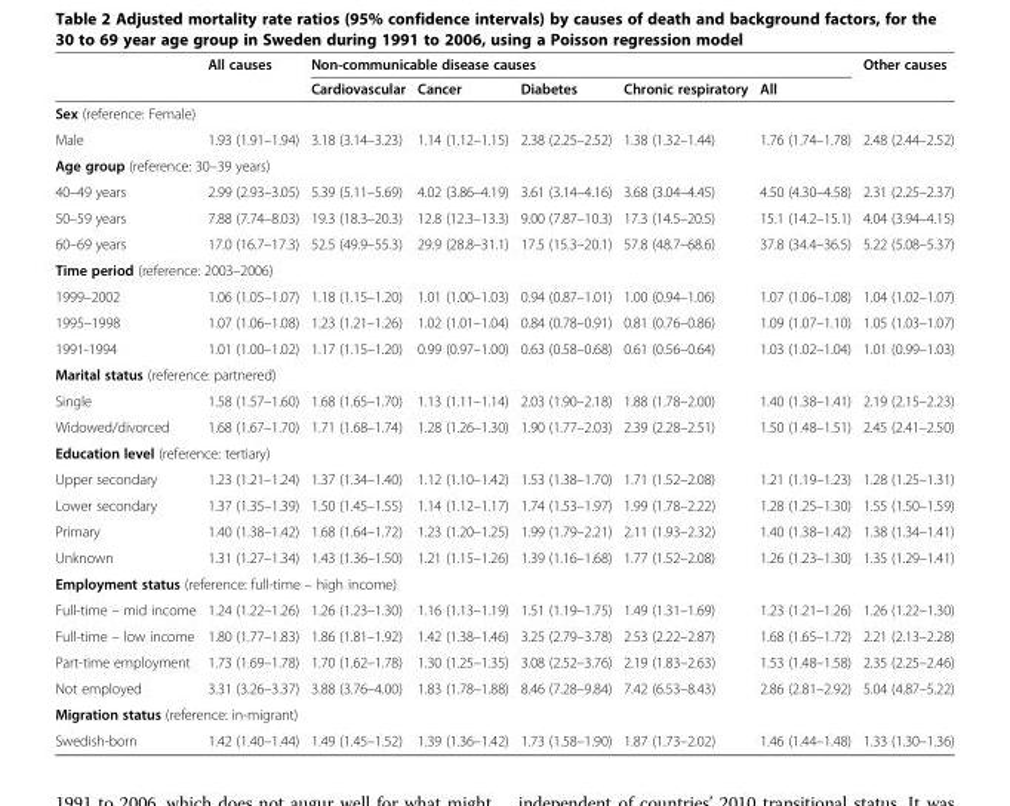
<table><thead><tr><td rowspan="2"></td><td rowspan="2">All causes</td><td colspan="5">Non-communicable disease causes</td><td rowspan="2">Other causes</td></tr><tr><td>Cardiovascular</td><td>Cancer</td><td>Diabetes</td><td>Chronic respiratory</td><td>All</td></tr></thead><tbody><tr><td colspan="8">Sex (reference: Female)</td></tr><tr><td>Male</td><td>1.93 (1.91–1.94)</td><td>3.18 (3.14–3.23)</td><td>1.14 (1.12–1.15)</td><td>2.38 (2.25–2.52)</td><td>1.38 (1.32–1.44)</td><td>1.76 (1.74–1.78)</td><td>2.48 (2.44–2.52)</td></tr><tr><td colspan="8">Age group (reference: 30–39 years)</td></tr><tr><td>40–49 years</td><td>2.99 (2.93–3.05)</td><td>5.39 (5.11–5.69)</td><td>4.02 (3.86–4.19)</td><td>3.61 (3.14–4.16)</td><td>3.68 (3.04–4.45)</td><td>4.50 (4.30–4.58)</td><td>2.31 (2.25–2.37)</td></tr><tr><td>50–59 years</td><td>7.88 (7.74–8.03)</td><td>19.3 (18.3–20.3)</td><td>12.8 (12.3–13.3)</td><td>9.00 (7.87–10.3)</td><td>17.3 (14.5–20.5)</td><td>15.1 (14.2–15.1)</td><td>4.04 (3.94–4.15)</td></tr><tr><td>60–69 years</td><td>17.0 (16.7–17.3)</td><td>52.5 (49.9–55.3)</td><td>29.9 (28.8–31.1)</td><td>17.5 (15.3–20.1)</td><td>57.8 (48.7–68.6)</td><td>37.8 (34.4–36.5)</td><td>5.22 (5.08–5.37)</td></tr><tr><td colspan="8">Time period (reference: 2003–2006)</td></tr><tr><td>1999–2002</td><td>1.06 (1.05–1.07)</td><td>1.18 (1.15–1.20)</td><td>1.01 (1.00–1.03)</td><td>0.94 (0.87–1.01)</td><td>1.00 (0.94–1.06)</td><td>1.07 (1.06–1.08)</td><td>1.04 (1.02–1.07)</td></tr><tr><td>1995–1998</td><td>1.07 (1.06–1.08)</td><td>1.23 (1.21–1.26)</td><td>1.02 (1.01–1.04)</td><td>0.84 (0.78–0.91)</td><td>0.81 (0.76–0.86)</td><td>1.09 (1.07–1.10)</td><td>1.05 (1.03–1.07)</td></tr><tr><td>1991-1994</td><td>1.01 (1.00–1.02)</td><td>1.17 (1.15–1.20)</td><td>0.99 (0.97–1.00)</td><td>0.63 (0.58–0.68)</td><td>0.61 (0.56–0.64)</td><td>1.03 (1.02–1.04)</td><td>1.01 (0.99–1.03)</td></tr><tr><td colspan="8">Marital status (reference: partnered)</td></tr><tr><td>Single</td><td>1.58 (1.57–1.60)</td><td>1.68 (1.65–1.70)</td><td>1.13 (1.11–1.14)</td><td>2.03 (1.90–2.18)</td><td>1.88 (1.78–2.00)</td><td>1.40 (1.38–1.41)</td><td>2.19 (2.15–2.23)</td></tr><tr><td>Widowed/divorced</td><td>1.68 (1.67–1.70)</td><td>1.71 (1.68–1.74)</td><td>1.28 (1.26–1.30)</td><td>1.90 (1.77–2.03)</td><td>2.39 (2.28–2.51)</td><td>1.50 (1.48–1.51)</td><td>2.45 (2.41–2.50)</td></tr><tr><td colspan="8">Education level (reference: tertiary)</td></tr><tr><td>Upper secondary</td><td>1.23 (1.21–1.24)</td><td>1.37 (1.34–1.40)</td><td>1.12 (1.10–1.42)</td><td>1.53 (1.38–1.70)</td><td>1.71 (1.52–2.08)</td><td>1.21 (1.19–1.23)</td><td>1.28 (1.25–1.31)</td></tr><tr><td>Lower secondary</td><td>1.37 (1.35–1.39)</td><td>1.50 (1.45–1.55)</td><td>1.14 (1.12–1.17)</td><td>1.74 (1.53–1.97)</td><td>1.99 (1.78–2.22)</td><td>1.28 (1.25–1.30)</td><td>1.55 (1.50–1.59)</td></tr><tr><td>Primary</td><td>1.40 (1.38–1.42)</td><td>1.68 (1.64–1.72)</td><td>1.23 (1.20–1.25)</td><td>1.99 (1.79–2.21)</td><td>2.11 (1.93–2.32)</td><td>1.40 (1.38–1.42)</td><td>1.38 (1.34–1.41)</td></tr><tr><td>Unknown</td><td>1.31 (1.27–1.34)</td><td>1.43 (1.36–1.50)</td><td>1.21 (1.15–1.26)</td><td>1.39 (1.16–1.68)</td><td>1.77 (1.52–2.08)</td><td>1.26 (1.23–1.30)</td><td>1.35 (1.29–1.41)</td></tr><tr><td colspan="8">Employment status (reference: full-time – high income)</td></tr><tr><td>Full-time – mid income</td><td>1.24 (1.22–1.26)</td><td>1.26 (1.23–1.30)</td><td>1.16 (1.13–1.19)</td><td>1.51 (1.19–1.75)</td><td>1.49 (1.31–1.69)</td><td>1.23 (1.21–1.26)</td><td>1.26 (1.22–1.30)</td></tr><tr><td>Full-time – low income</td><td>1.80 (1.77–1.83)</td><td>1.86 (1.81–1.92)</td><td>1.42 (1.38–1.46)</td><td>3.25 (2.79–3.78)</td><td>2.53 (2.22–2.87)</td><td>1.68 (1.65–1.72)</td><td>2.21 (2.13–2.28)</td></tr><tr><td>Part-time employment</td><td>1.73 (1.69–1.78)</td><td>1.70 (1.62–1.78)</td><td>1.30 (1.25–1.35)</td><td>3.08 (2.52–3.76)</td><td>2.19 (1.83–2.63)</td><td>1.53 (1.48–1.58)</td><td>2.35 (2.25–2.46)</td></tr><tr><td>Not employed</td><td>3.31 (3.26–3.37)</td><td>3.88 (3.76–4.00)</td><td>1.83 (1.78–1.88)</td><td>8.46 (7.28–9.84)</td><td>7.42 (6.53–8.43)</td><td>2.86 (2.81–2.92)</td><td>5.04 (4.87–5.22)</td></tr><tr><td colspan="8">Migration status (reference: in-migrant)</td></tr><tr><td>Swedish-born</td><td>1.42 (1.40–1.44)</td><td>1.49 (1.45–1.52)</td><td>1.39 (1.36–1.42)</td><td>1.73 (1.58–1.90)</td><td>1.87 (1.73–2.02)</td><td>1.46 (1.44–1.48)</td><td>1.33 (1.30–1.36)</td></tr></tbody></table>